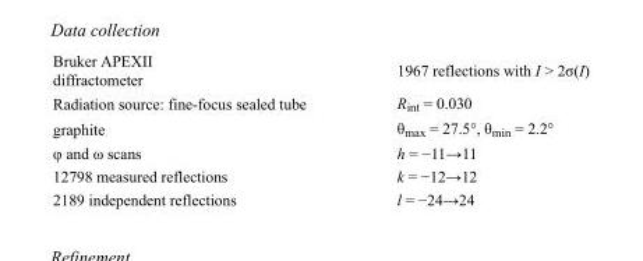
<table><tbody><tr><td>Bruker APEXII diffractometer</td><td>1967 reflections with I &gt; 2σ(I)</td></tr><tr><td>Radiation source: fine-focus sealed tube</td><td>R<sub>int</sub> = 0.030</td></tr><tr><td>graphite</td><td>θ<sub>max</sub> = 27.5°, θ<sub>min</sub> = 2.2°</td></tr><tr><td>φ and ω scans</td><td>h = −11→11</td></tr><tr><td>12798 measured reflections</td><td>k = −12→12</td></tr><tr><td>2189 independent reflections</td><td>l = −24→24</td></tr></tbody></table>